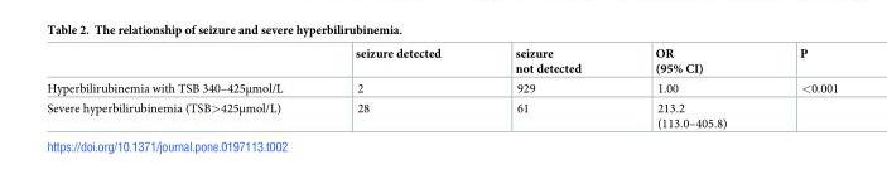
<table><thead><tr><td></td><td>seizure detected</td><td>seizure not detected</td><td>OR (95% CI)</td><td>P</td></tr></thead><tbody><tr><td>Hyperbilirubinemia with TSB 340–425μmol/L</td><td>2</td><td>929</td><td>1.00</td><td>&lt;0.001</td></tr><tr><td>Severe hyperbilirubinemia (TSB&gt;425μmol/L)</td><td>28</td><td>61</td><td>213.2 (113.0–405.8)</td><td></td></tr></tbody></table>